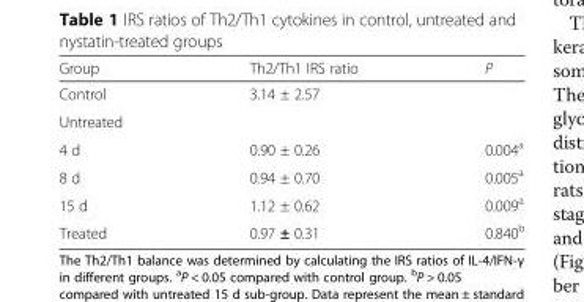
<table><thead><tr><td>Group</td><td>Th2/Th1 IRS ratio</td><td>P</td></tr></thead><tbody><tr><td>Control</td><td>3.14 ± 2.57</td><td></td></tr><tr><td colspan="3">Untreated</td></tr><tr><td>4 d</td><td>0.90 ± 0.26</td><td>0.004<sup>a</sup></td></tr><tr><td>8 d</td><td>0.94 ± 0.70</td><td>0.005<sup>a</sup></td></tr><tr><td>15 d</td><td>1.12 ± 0.62</td><td>0.009<sup>a</sup></td></tr><tr><td>Treated</td><td>0.97 ± 0.31</td><td>0.840<sup>b</sup></td></tr></tbody></table>